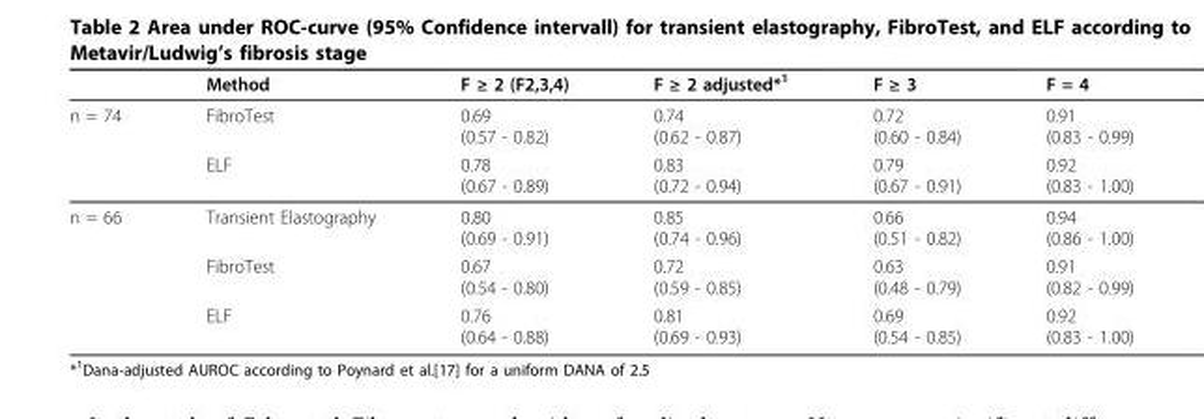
<table><thead><tr><td></td><td>Method</td><td>F ≥ 2 (F2,3,4)</td><td>F ≥ 2 adjusted*<sup>1</sup></td><td>F ≥ 3</td><td>F = 4</td></tr></thead><tbody><tr><td rowspan="2">n = 74</td><td>FibroTest</td><td>0.69 (0.57 - 0.82)</td><td>0.74 (0.62 - 0.87)</td><td>0.72 (0.60 - 0.84)</td><td>0.91 (0.83 - 0.99)</td></tr><tr><td>ELF</td><td>0.78 (0.67 - 0.89)</td><td>0.83 (0.72 - 0.94)</td><td>0.79 (0.67 - 0.91)</td><td>0.92 (0.83 - 1.00)</td></tr><tr><td rowspan="3">n = 66</td><td>Transient Elastography</td><td>0.80 (0.69 - 0.91)</td><td>0.85 (0.74 - 0.96)</td><td>0.66 (0.51 - 0.82)</td><td>0.94 (0.86 - 1.00)</td></tr><tr><td>FibroTest</td><td>0.67 (0.54 - 0.80)</td><td>0.72 (0.59 - 0.85)</td><td>0.63 (0.48 - 0.79)</td><td>0.91 (0.82 - 0.99)</td></tr><tr><td>ELF</td><td>0.76 (0.64 - 0.88)</td><td>0.81 (0.69 - 0.93)</td><td>0.69 (0.54 - 0.85)</td><td>0.92 (0.83 - 1.00)</td></tr></tbody></table>